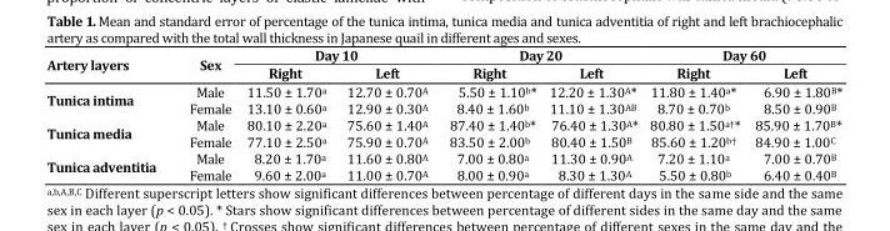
<table><thead><tr><td rowspan="2">Artery layers</td><td rowspan="2">Sex</td><td colspan="2">Day 10</td><td colspan="2">Day 20</td><td colspan="2">Day 60</td></tr><tr><td>Right</td><td>Left</td><td>Right</td><td>Left</td><td>Right</td><td>Left</td></tr></thead><tbody><tr><td rowspan="2">Tunica intima</td><td>Male</td><td>11.50 ± 1.70<sup>a</sup></td><td>12.70 ± 0.70<sup>A</sup></td><td>5.50 ± 1.10<sup>b</sup>*</td><td>12.20 ± 1.30<sup>A</sup>*</td><td>11.80 ± 1.40<sup>a</sup>*</td><td>6.90 ± 1.80<sup>B</sup>*</td></tr><tr><td>Female</td><td>13.10 ± 0.60<sup>a</sup></td><td>12.90 ± 0.30<sup>A</sup></td><td>8.40 ± 1.60<sup>b</sup></td><td>11.10 ± 1.30<sup>AB</sup></td><td>8.70 ± 0.70<sup>b</sup></td><td>8.50 ± 0.90<sup>B</sup></td></tr><tr><td rowspan="2">Tunica media</td><td>Male</td><td>80.10 ± 2.20<sup>a</sup></td><td>75.60 ± 1.40<sup>A</sup></td><td>87.40 ± 1.40<sup>b</sup>*</td><td>76.40 ± 1.30<sup>A</sup>*</td><td>80.80 ± 1.50<sup>a</sup>†*</td><td>85.90 ± 1.70<sup>B</sup>*</td></tr><tr><td>Female</td><td>77.10 ± 2.50<sup>a</sup></td><td>75.90 ± 0.70<sup>A</sup></td><td>83.50 ± 2.00<sup>b</sup></td><td>80.40 ± 1.50<sup>B</sup></td><td>85.60 ± 1.20<sup>b</sup>†</td><td>84.90 ± 1.00<sup>C</sup></td></tr><tr><td rowspan="2">Tunica adventitia</td><td>Male</td><td>8.20 ± 1.70<sup>a</sup></td><td>11.60 ± 0.80<sup>A</sup></td><td>7.00 ± 0.80<sup>a</sup></td><td>11.30 ± 0.90<sup>A</sup></td><td>7.20 ± 1.10<sup>a</sup></td><td>7.00 ± 0.70<sup>B</sup></td></tr><tr><td>Female</td><td>9.60 ± 2.00<sup>a</sup></td><td>11.00 ± 0.70<sup>A</sup></td><td>8.00 ± 0.90<sup>a</sup></td><td>8.30 ± 1.30<sup>A</sup></td><td>5.50 ± 0.80<sup>b</sup></td><td>6.40 ± 0.40<sup>B</sup></td></tr></tbody></table>